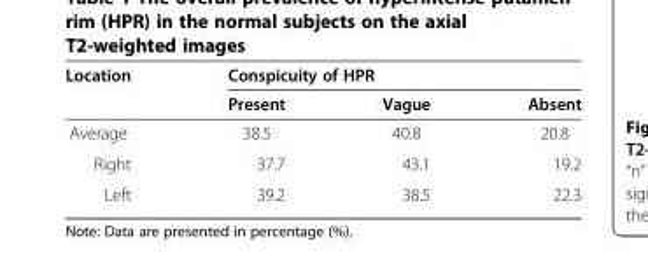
<table><thead><tr><td rowspan="2">Location</td><td colspan="3">Conspicuity of HPR</td></tr><tr><td>Present</td><td>Vague</td><td>Absent</td></tr></thead><tbody><tr><td>Average</td><td>38.5</td><td>40.8</td><td>20.8</td></tr><tr><td>Right</td><td>37.7</td><td>43.1</td><td>19.2</td></tr><tr><td>Left</td><td>39.2</td><td>38.5</td><td>22.3</td></tr></tbody></table>